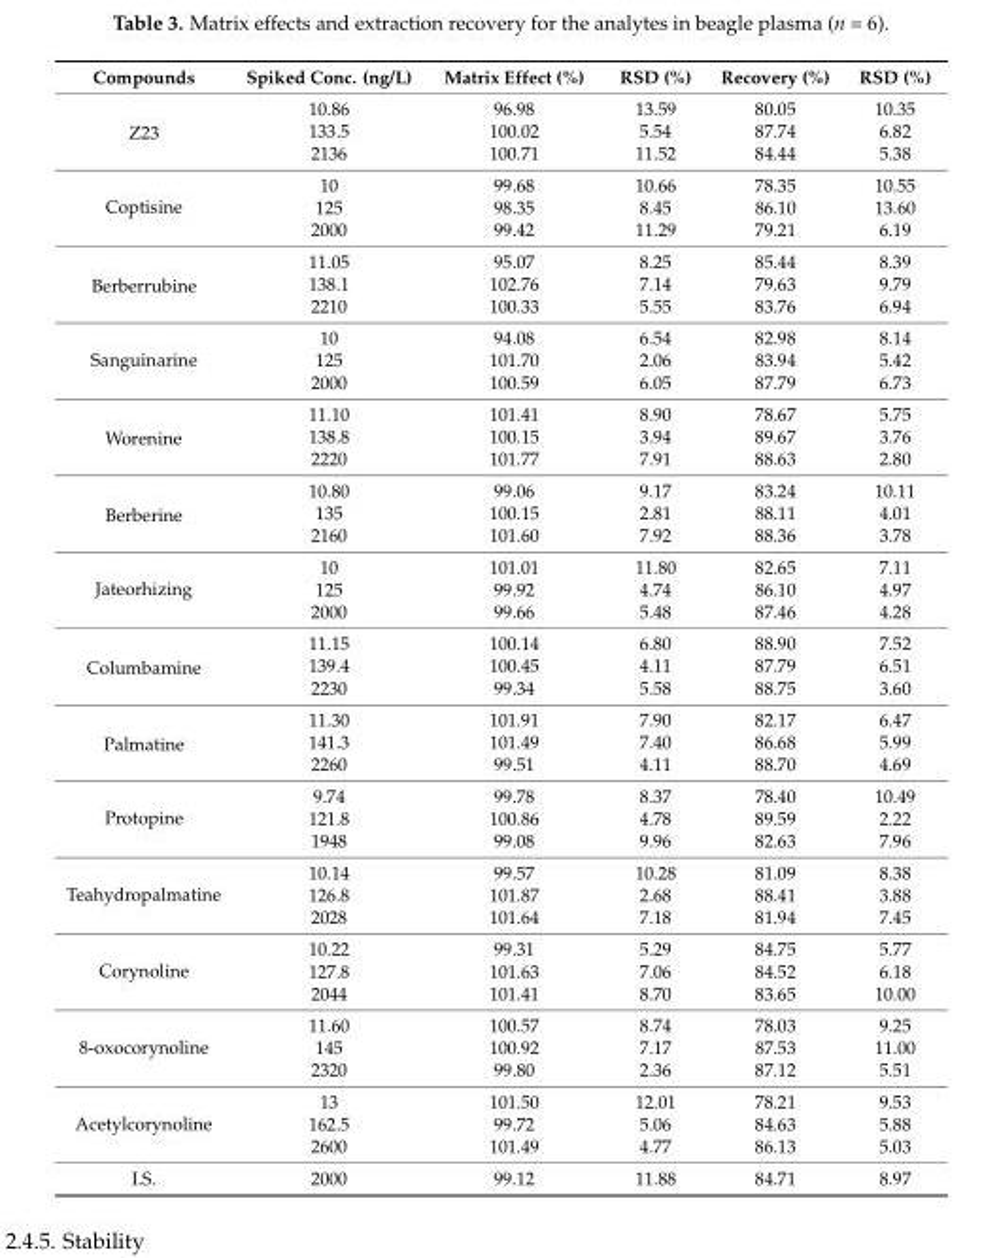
<table><thead><tr><td>Compounds</td><td>Spiked Conc. (ng/L)</td><td>Matrix Effect (%)</td><td>RSD (%)</td><td>Recovery (%)</td><td>RSD (%)</td></tr></thead><tbody><tr><td rowspan="3">Z23</td><td>10.86</td><td>96.98</td><td>13.59</td><td>80.05</td><td>10.35</td></tr><tr><td>133.5</td><td>100.02</td><td>5.54</td><td>87.74</td><td>6.82</td></tr><tr><td>2136</td><td>100.71</td><td>11.52</td><td>84.44</td><td>5.38</td></tr><tr><td rowspan="3">Coptisine</td><td>10</td><td>99.68</td><td>10.66</td><td>78.35</td><td>10.55</td></tr><tr><td>125</td><td>98.35</td><td>8.45</td><td>86.10</td><td>13.60</td></tr><tr><td>2000</td><td>99.42</td><td>11.29</td><td>79.21</td><td>6.19</td></tr><tr><td rowspan="3">Berberrubine</td><td>11.05</td><td>95.07</td><td>8.25</td><td>85.44</td><td>8.39</td></tr><tr><td>138.1</td><td>102.76</td><td>7.14</td><td>79.63</td><td>9.79</td></tr><tr><td>2210</td><td>100.33</td><td>5.55</td><td>83.76</td><td>6.94</td></tr><tr><td rowspan="3">Sanguinarine</td><td>10</td><td>94.08</td><td>6.54</td><td>82.98</td><td>8.14</td></tr><tr><td>125</td><td>101.70</td><td>2.06</td><td>83.94</td><td>5.42</td></tr><tr><td>2000</td><td>100.59</td><td>6.05</td><td>87.79</td><td>6.73</td></tr><tr><td rowspan="3">Worenine</td><td>11.10</td><td>101.41</td><td>8.90</td><td>78.67</td><td>5.75</td></tr><tr><td>138.8</td><td>100.15</td><td>3.94</td><td>89.67</td><td>3.76</td></tr><tr><td>2220</td><td>101.77</td><td>7.91</td><td>88.63</td><td>2.80</td></tr><tr><td rowspan="3">Berberine</td><td>10.80</td><td>99.06</td><td>9.17</td><td>83.24</td><td>10.11</td></tr><tr><td>135</td><td>100.15</td><td>2.81</td><td>88.11</td><td>4.01</td></tr><tr><td>2160</td><td>101.60</td><td>7.92</td><td>88.36</td><td>3.78</td></tr><tr><td rowspan="3">Jateorhizing</td><td>10</td><td>101.01</td><td>11.80</td><td>82.65</td><td>7.11</td></tr><tr><td>125</td><td>99.92</td><td>4.74</td><td>86.10</td><td>4.97</td></tr><tr><td>2000</td><td>99.66</td><td>5.48</td><td>87.46</td><td>4.28</td></tr><tr><td rowspan="3">Columbamine</td><td>11.15</td><td>100.14</td><td>6.80</td><td>88.90</td><td>7.52</td></tr><tr><td>139.4</td><td>100.45</td><td>4.11</td><td>87.79</td><td>6.51</td></tr><tr><td>2230</td><td>99.34</td><td>5.58</td><td>88.75</td><td>3.60</td></tr><tr><td rowspan="3">Palmatine</td><td>11.30</td><td>101.91</td><td>7.90</td><td>82.17</td><td>6.47</td></tr><tr><td>141.3</td><td>101.49</td><td>7.40</td><td>86.68</td><td>5.99</td></tr><tr><td>2260</td><td>99.51</td><td>4.11</td><td>88.70</td><td>4.69</td></tr><tr><td rowspan="3">Protopine</td><td>9.74</td><td>99.78</td><td>8.37</td><td>78.40</td><td>10.49</td></tr><tr><td>121.8</td><td>100.86</td><td>4.78</td><td>89.59</td><td>2.22</td></tr><tr><td>1948</td><td>99.08</td><td>9.96</td><td>82.63</td><td>7.96</td></tr><tr><td rowspan="3">Teahydropalmatine</td><td>10.14</td><td>99.57</td><td>10.28</td><td>81.09</td><td>8.38</td></tr><tr><td>126.8</td><td>101.87</td><td>2.68</td><td>88.41</td><td>3.88</td></tr><tr><td>2028</td><td>101.64</td><td>7.18</td><td>81.94</td><td>7.45</td></tr><tr><td rowspan="3">Corynoline</td><td>10.22</td><td>99.31</td><td>5.29</td><td>84.75</td><td>5.77</td></tr><tr><td>127.8</td><td>101.63</td><td>7.06</td><td>84.52</td><td>6.18</td></tr><tr><td>2044</td><td>101.41</td><td>8.70</td><td>83.65</td><td>10.00</td></tr><tr><td rowspan="3">8-oxocorynoline</td><td>11.60</td><td>100.57</td><td>8.74</td><td>78.03</td><td>9.25</td></tr><tr><td>145</td><td>100.92</td><td>7.17</td><td>87.53</td><td>11.00</td></tr><tr><td>2320</td><td>99.80</td><td>2.36</td><td>87.12</td><td>5.51</td></tr><tr><td rowspan="3">Acetylcorynoline</td><td>13</td><td>101.50</td><td>12.01</td><td>78.21</td><td>9.53</td></tr><tr><td>162.5</td><td>99.72</td><td>5.06</td><td>84.63</td><td>5.88</td></tr><tr><td>2600</td><td>101.49</td><td>4.77</td><td>86.13</td><td>5.03</td></tr><tr><td>I.S.</td><td>2000</td><td>99.12</td><td>11.88</td><td>84.71</td><td>8.97</td></tr></tbody></table>